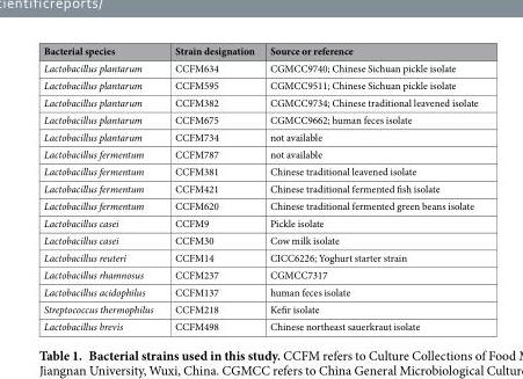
<table><thead><tr><td>Bacterial species</td><td>Strain designation</td><td>Source or reference</td></tr></thead><tbody><tr><td>Lactobacillus plantarum</td><td>CCFM634</td><td>CGMCC9740; Chinese Sichuan pickle isolate</td></tr><tr><td>Lactobacillus plantarum</td><td>CCFM595</td><td>CGMCC9511; Chinese Sichuan pickle isolate</td></tr><tr><td>Lactobacillus plantarum</td><td>CCFM382</td><td>CGMCC9734; Chinese traditional leavened isolate</td></tr><tr><td>Lactobacillus plantarum</td><td>CCFM675</td><td>CGMCC9662; human feces isolate</td></tr><tr><td>Lactobacillus plantarum</td><td>CCFM734</td><td>not available</td></tr><tr><td>Lactobacillus fermentum</td><td>CCFM787</td><td>not available</td></tr><tr><td>Lactobacillus fermentum</td><td>CCFM381</td><td>Chinese traditional leavened isolate</td></tr><tr><td>Lactobacillus fermentum</td><td>CCFM421</td><td>Chinese traditional fermented fish isolate</td></tr><tr><td>Lactobacillus fermentum</td><td>CCFM620</td><td>Chinese traditional fermented green beans isolate</td></tr><tr><td>Lactobacillus casei</td><td>CCFM9</td><td>Pickle isolate</td></tr><tr><td>Lactobacillus casei</td><td>CCFM30</td><td>Cow milk isolate</td></tr><tr><td>Lactobacillus reuteri</td><td>CCFM14</td><td>CICC6226; Yoghurt starter strain</td></tr><tr><td>Lactobacillus rhamnosus</td><td>CCFM237</td><td>CGMCC7317</td></tr><tr><td>Lactobacillus acidophilus</td><td>CCFM137</td><td>human feces isolate</td></tr><tr><td>Streptococcus thermophilus</td><td>CCFM218</td><td>Kefir isolate</td></tr><tr><td>Lactobacillus brevis</td><td>CCFM498</td><td>Chinese northeast sauerkraut isolate</td></tr></tbody></table>